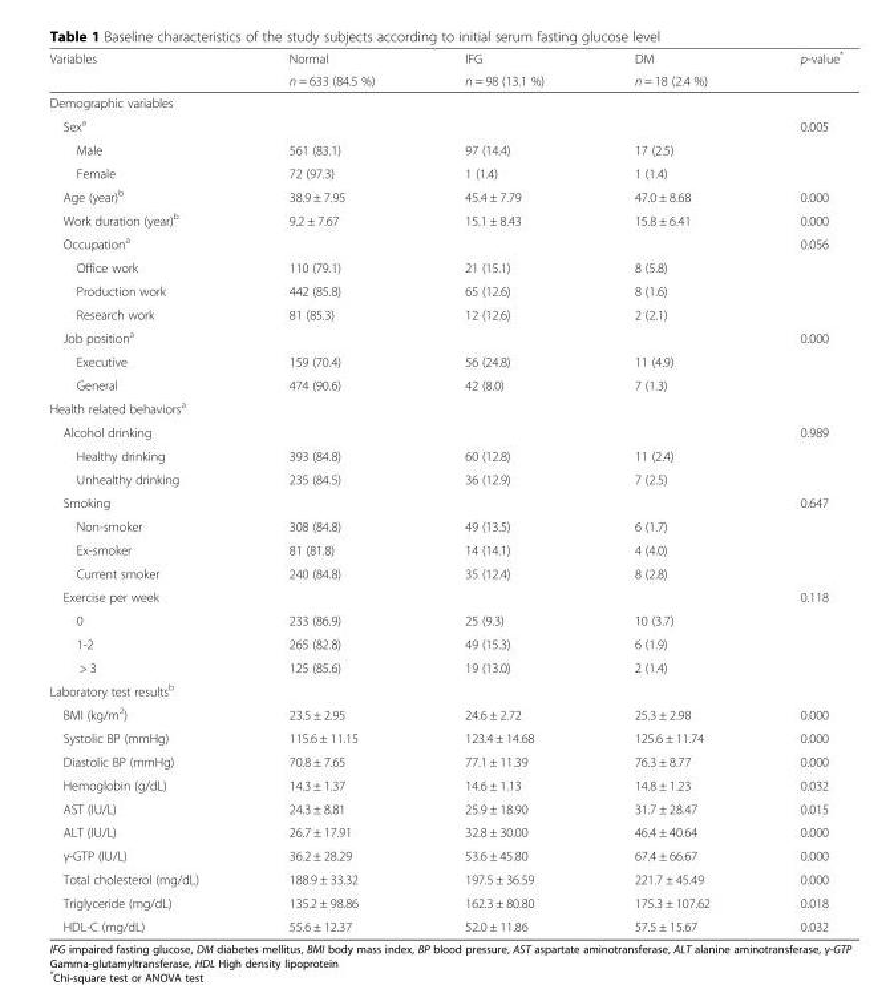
<table><thead><tr><td rowspan="2">Variables</td><td rowspan="2">Normal n = 633 (84.5 %)</td><td rowspan="2">IFG n = 98 (13.1 %)</td><td rowspan="2">DM n = 18 (2.4 %)</td><td rowspan="2">p-value*</td></tr><tr></tr></thead><tbody><tr><td colspan="5">Demographic variables</td></tr><tr><td>Sex<sup>a</sup></td><td></td><td></td><td></td><td>0.005</td></tr><tr><td>Male</td><td>561 (83.1)</td><td>97 (14.4)</td><td>17 (2.5)</td><td></td></tr><tr><td>Female</td><td>72 (97.3)</td><td>1 (1.4)</td><td>1 (1.4)</td><td></td></tr><tr><td>Age (year)<sup>b</sup></td><td>38.9 ± 7.95</td><td>45.4 ± 7.79</td><td>47.0 ± 8.68</td><td>0.000</td></tr><tr><td>Work duration (year)<sup>b</sup></td><td>9.2 ± 7.67</td><td>15.1 ± 8.43</td><td>15.8 ± 6.41</td><td>0.000</td></tr><tr><td>Occupation<sup>a</sup></td><td></td><td></td><td></td><td>0.056</td></tr><tr><td>Office work</td><td>110 (79.1)</td><td>21 (15.1)</td><td>8 (5.8)</td><td></td></tr><tr><td>Production work</td><td>442 (85.8)</td><td>65 (12.6)</td><td>8 (1.6)</td><td></td></tr><tr><td>Research work</td><td>81 (85.3)</td><td>12 (12.6)</td><td>2 (2.1)</td><td></td></tr><tr><td>Job position<sup>a</sup></td><td></td><td></td><td></td><td>0.000</td></tr><tr><td>Executive</td><td>159 (70.4)</td><td>56 (24.8)</td><td>11 (4.9)</td><td></td></tr><tr><td>General</td><td>474 (90.6)</td><td>42 (8.0)</td><td>7 (1.3)</td><td></td></tr><tr><td colspan="5">Health related behaviors<sup>a</sup></td></tr><tr><td>Alcohol drinking</td><td></td><td></td><td></td><td>0.989</td></tr><tr><td>Healthy drinking</td><td>393 (84.8)</td><td>60 (12.8)</td><td>11 (2.4)</td><td></td></tr><tr><td>Unhealthy drinking</td><td>235 (84.5)</td><td>36 (12.9)</td><td>7 (2.5)</td><td></td></tr><tr><td>Smoking</td><td></td><td></td><td></td><td>0.647</td></tr><tr><td>Non-smoker</td><td>308 (84.8)</td><td>49 (13.5)</td><td>6 (1.7)</td><td></td></tr><tr><td>Ex-smoker</td><td>81 (81.8)</td><td>14 (14.1)</td><td>4 (4.0)</td><td></td></tr><tr><td>Current smoker</td><td>240 (84.8)</td><td>35 (12.4)</td><td>8 (2.8)</td><td></td></tr><tr><td>Exercise per week</td><td></td><td></td><td></td><td>0.118</td></tr><tr><td>0</td><td>233 (86.9)</td><td>25 (9.3)</td><td>10 (3.7)</td><td></td></tr><tr><td>1-2</td><td>265 (82.8)</td><td>49 (15.3)</td><td>6 (1.9)</td><td></td></tr><tr><td>&gt; 3</td><td>125 (85.6)</td><td>19 (13.0)</td><td>2 (1.4)</td><td></td></tr><tr><td colspan="5">Laboratory test results<sup>b</sup></td></tr><tr><td>BMI (kg/m<sup>2</sup>)</td><td>23.5 ± 2.95</td><td>24.6 ± 2.72</td><td>25.3 ± 2.98</td><td>0.000</td></tr><tr><td>Systolic BP (mmHg)</td><td>115.6 ± 11.15</td><td>123.4 ± 14.68</td><td>125.6 ± 11.74</td><td>0.000</td></tr><tr><td>Diastolic BP (mmHg)</td><td>70.8 ± 7.65</td><td>77.1 ± 11.39</td><td>76.3 ± 8.77</td><td>0.000</td></tr><tr><td>Hemoglobin (g/dL)</td><td>14.3 ± 1.37</td><td>14.6 ± 1.13</td><td>14.8 ± 1.23</td><td>0.032</td></tr><tr><td>AST (IU/L)</td><td>24.3 ± 8.81</td><td>25.9 ± 18.90</td><td>31.7 ± 28.47</td><td>0.015</td></tr><tr><td>ALT (IU/L)</td><td>26.7 ± 17.91</td><td>32.8 ± 30.00</td><td>46.4 ± 40.64</td><td>0.000</td></tr><tr><td>γ-GTP (IU/L)</td><td>36.2 ± 28.29</td><td>53.6 ± 45.80</td><td>67.4 ± 66.67</td><td>0.000</td></tr><tr><td>Total cholesterol (mg/dL)</td><td>188.9 ± 33.32</td><td>197.5 ± 36.59</td><td>221.7 ± 45.49</td><td>0.000</td></tr><tr><td>Triglyceride (mg/dL)</td><td>135.2 ± 98.86</td><td>162.3 ± 80.80</td><td>175.3 ± 107.62</td><td>0.018</td></tr><tr><td>HDL-C (mg/dL)</td><td>55.6 ± 12.37</td><td>52.0 ± 11.86</td><td>57.5 ± 15.67</td><td>0.032</td></tr></tbody></table>